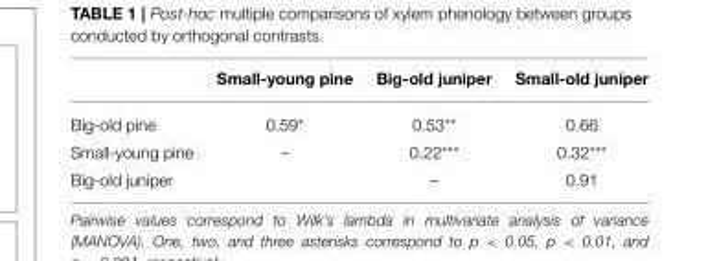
<table><thead><tr><td></td><td>Small-young pine</td><td>Big-old juniper</td><td>Small-old juniper</td></tr></thead><tbody><tr><td>Big-old pine</td><td>0.59*</td><td>0.53**</td><td>0.66</td></tr><tr><td>Small-young pine</td><td>–</td><td>0.22***</td><td>0.32***</td></tr><tr><td>Big-old juniper</td><td></td><td>–</td><td>0.91</td></tr></tbody></table>